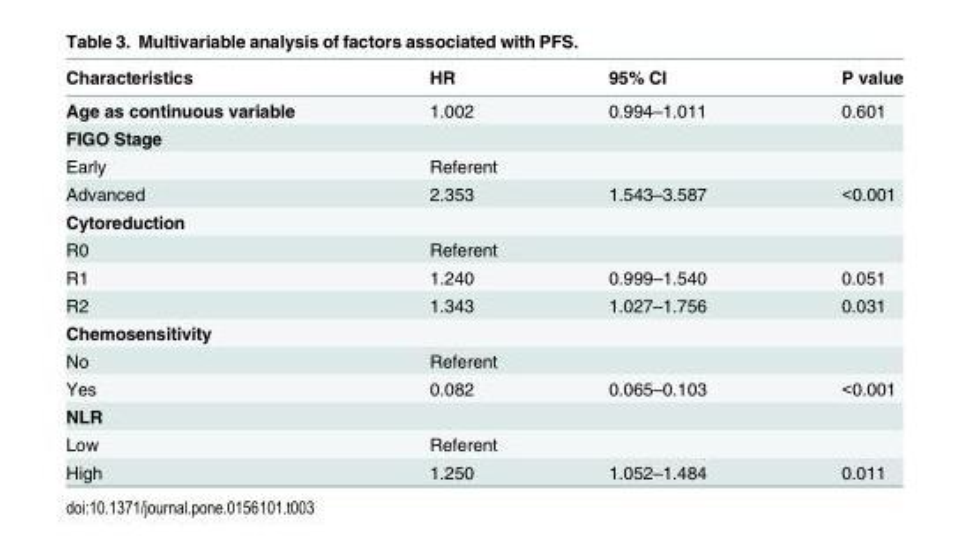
<table><thead><tr><td>Characteristics</td><td>HR</td><td>95% CI</td><td>P value</td></tr></thead><tbody><tr><td>Age as continuous variable</td><td>1.002</td><td>0.994–1.011</td><td>0.601</td></tr><tr><td colspan="4">FIGO Stage</td></tr><tr><td>Early</td><td colspan="3">Referent</td></tr><tr><td>Advanced</td><td>2.353</td><td>1.543–3.587</td><td>&lt;0.001</td></tr><tr><td colspan="4">Cytoreduction</td></tr><tr><td>R0</td><td colspan="3">Referent</td></tr><tr><td>R1</td><td>1.240</td><td>0.999–1.540</td><td>0.051</td></tr><tr><td>R2</td><td>1.343</td><td>1.027–1.756</td><td>0.031</td></tr><tr><td colspan="4">Chemosensitivity</td></tr><tr><td>No</td><td colspan="3">Referent</td></tr><tr><td>Yes</td><td>0.082</td><td>0.065–0.103</td><td>&lt;0.001</td></tr><tr><td colspan="4">NLR</td></tr><tr><td>Low</td><td colspan="3">Referent</td></tr><tr><td>High</td><td>1.250</td><td>1.052–1.484</td><td>0.011</td></tr></tbody></table>